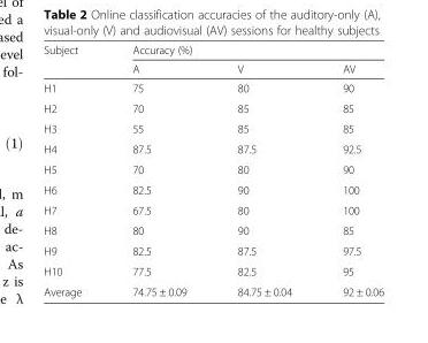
<table><thead><tr><td rowspan="2">Subject</td><td colspan="3">Accuracy (%)</td></tr><tr><td>A</td><td>V</td><td>AV</td></tr></thead><tbody><tr><td>H1</td><td>75</td><td>80</td><td>90</td></tr><tr><td>H2</td><td>70</td><td>85</td><td>85</td></tr><tr><td>H3</td><td>55</td><td>85</td><td>85</td></tr><tr><td>H4</td><td>87.5</td><td>87.5</td><td>92.5</td></tr><tr><td>H5</td><td>70</td><td>80</td><td>90</td></tr><tr><td>H6</td><td>82.5</td><td>90</td><td>100</td></tr><tr><td>H7</td><td>67.5</td><td>80</td><td>100</td></tr><tr><td>H8</td><td>80</td><td>90</td><td>85</td></tr><tr><td>H9</td><td>82.5</td><td>87.5</td><td>97.5</td></tr><tr><td>H10</td><td>77.5</td><td>82.5</td><td>95</td></tr><tr><td>Average</td><td>74.75 ± 0.09</td><td>84.75 ± 0.04</td><td>92 ± 0.06</td></tr></tbody></table>